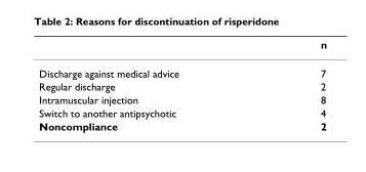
<table><thead><tr><td></td><td>n</td></tr></thead><tbody><tr><td>Discharge against medical advice</td><td>7</td></tr><tr><td>Regular discharge</td><td>2</td></tr><tr><td>Intramuscular injection</td><td>8</td></tr><tr><td>Switch to another antipsychotic</td><td>4</td></tr><tr><td>Noncompliance</td><td>2</td></tr></tbody></table>